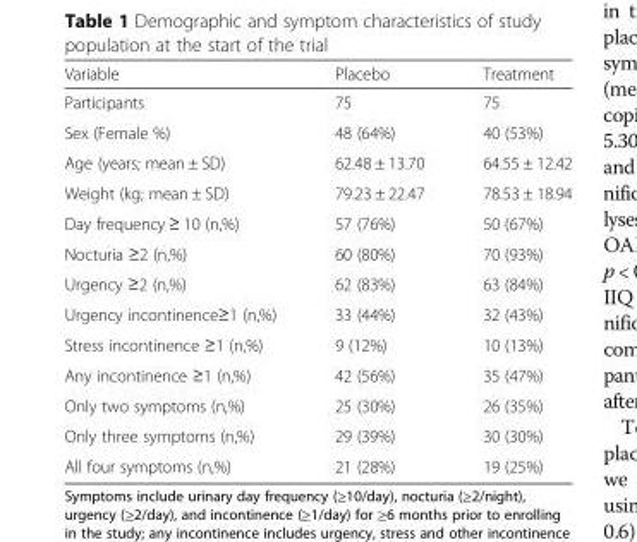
<table><thead><tr><td>Variable</td><td>Placebo</td><td>Treatment</td></tr></thead><tbody><tr><td>Participants</td><td>75</td><td>75</td></tr><tr><td>Sex (Female %)</td><td>48 (64%)</td><td>40 (53%)</td></tr><tr><td>Age (years; mean ± SD)</td><td>62.48 ± 13.70</td><td>64.55 ± 12.42</td></tr><tr><td>Weight (kg; mean ± SD)</td><td>79.23 ± 22.47</td><td>78.53 ± 18.94</td></tr><tr><td>Day frequency ≥ 10 (n,%)</td><td>57 (76%)</td><td>50 (67%)</td></tr><tr><td>Nocturia ≥2 (n,%)</td><td>60 (80%)</td><td>70 (93%)</td></tr><tr><td>Urgency ≥2 (n,%)</td><td>62 (83%)</td><td>63 (84%)</td></tr><tr><td>Urgency incontinence≥1 (n,%)</td><td>33 (44%)</td><td>32 (43%)</td></tr><tr><td>Stress incontinence ≥1 (n,%)</td><td>9 (12%)</td><td>10 (13%)</td></tr><tr><td>Any incontinence ≥1 (n,%)</td><td>42 (56%)</td><td>35 (47%)</td></tr><tr><td>Only two symptoms (n,%)</td><td>25 (30%)</td><td>26 (35%)</td></tr><tr><td>Only three symptoms (n,%)</td><td>29 (39%)</td><td>30 (30%)</td></tr><tr><td>All four symptoms (n,%)</td><td>21 (28%)</td><td>19 (25%)</td></tr></tbody></table>